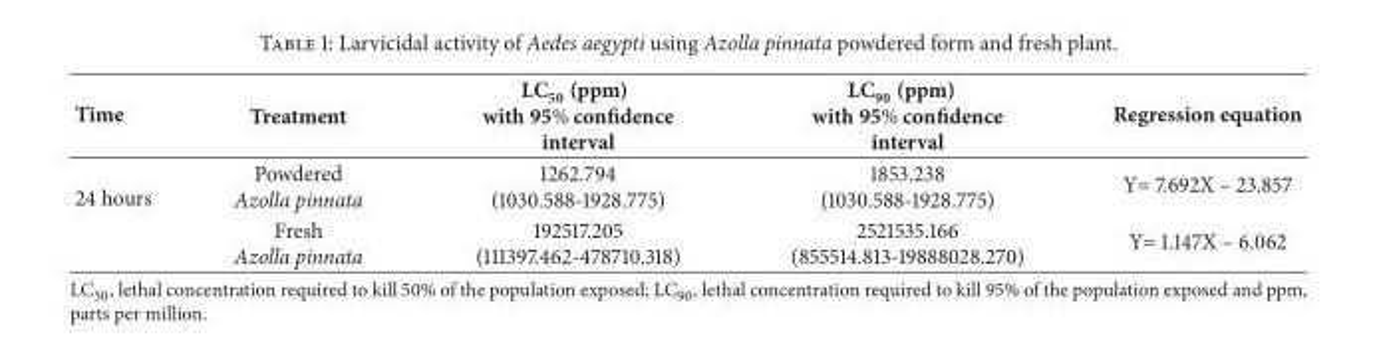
<table><thead><tr><td>Time</td><td>Treatment</td><td>LC<sub>50</sub> (ppm) with 95% confidence interval</td><td>LC<sub>90</sub> (ppm) with 95% confidence interval</td><td>Regression equation</td></tr></thead><tbody><tr><td rowspan="2">24 hours</td><td>Powdered Azolla pinnata</td><td>1262.794 (1030.588-1928.775)</td><td>1853.238 (1030.588-1928.775)</td><td>Y= 7.692X – 23.857</td></tr><tr><td>Fresh Azolla pinnata</td><td>192517.205 (111397.462-478710.318)</td><td>2521535.166 (855514.813-19888028.270)</td><td>Y= 1.147X – 6.062</td></tr></tbody></table>